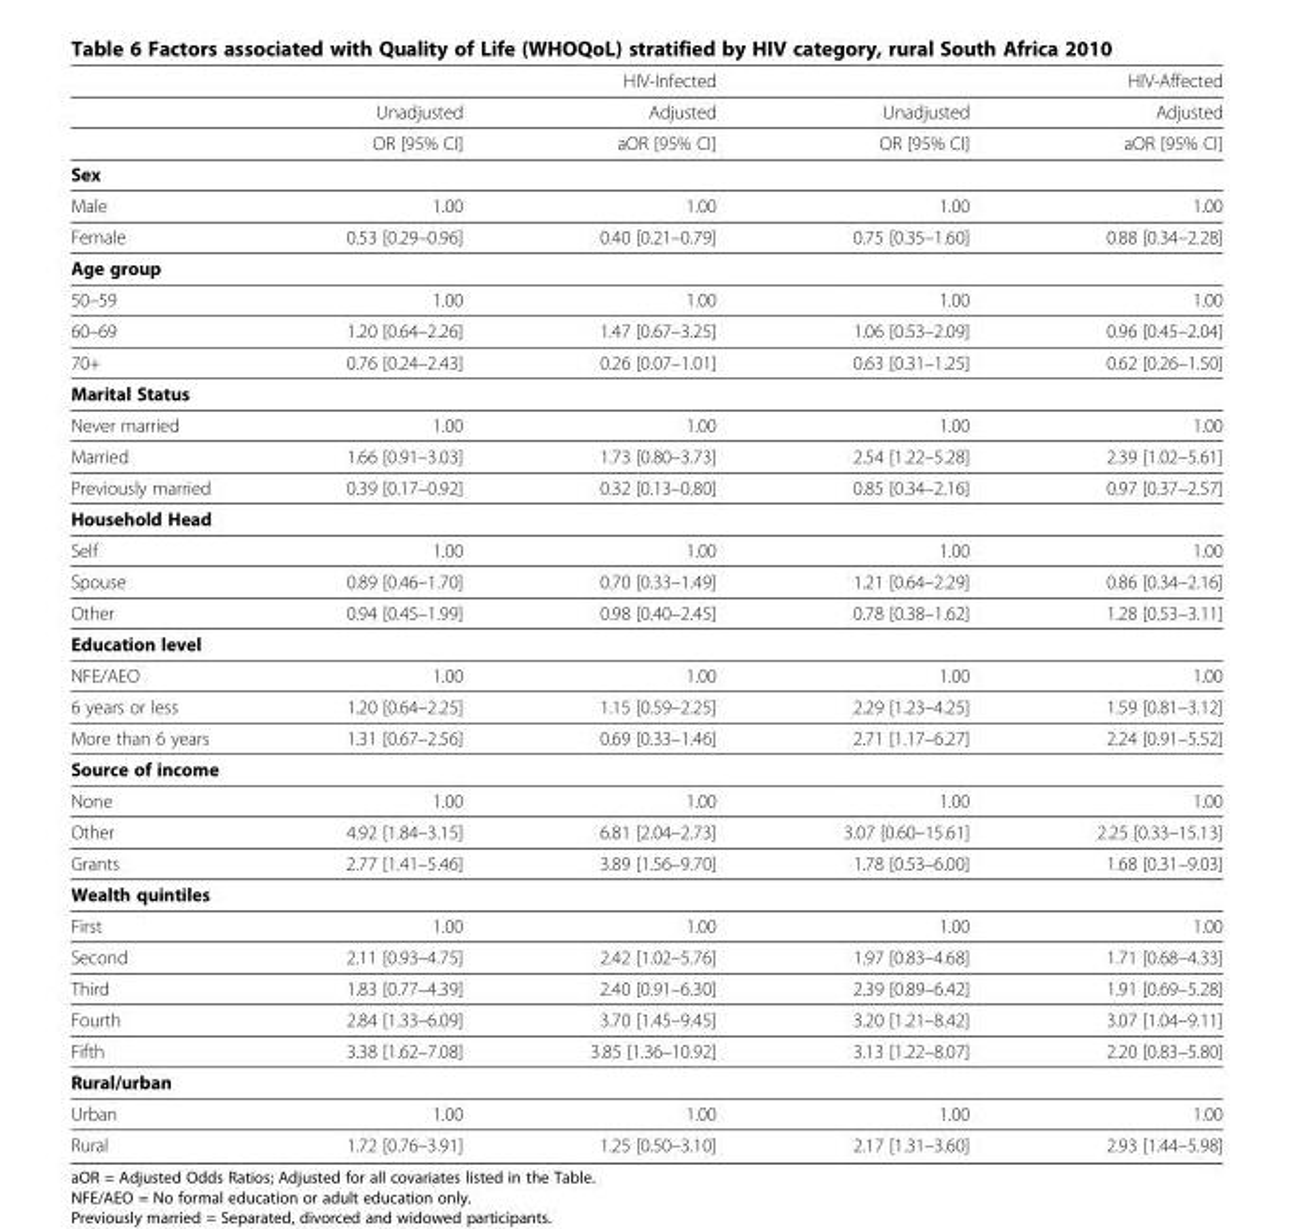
<table><thead><tr><td rowspan="2"></td><td colspan="2">HIV-Infected</td><td colspan="2">HIV-Affected</td></tr><tr><td>Unadjusted</td><td>Adjusted</td><td>Unadjusted</td><td>Adjusted</td></tr></thead><tbody><tr><td></td><td>OR [95% CI]</td><td>aOR [95% CI]</td><td>OR [95% CI]</td><td>aOR [95% CI]</td></tr><tr><td colspan="5">Sex</td></tr><tr><td>Male</td><td>1.00</td><td>1.00</td><td>1.00</td><td>1.00</td></tr><tr><td>Female</td><td>0.53 [0.29–0.96]</td><td>0.40 [0.21–0.79]</td><td>0.75 [0.35–1.60]</td><td>0.88 [0.34–2.28]</td></tr><tr><td colspan="5">Age group</td></tr><tr><td>50–59</td><td>1.00</td><td>1.00</td><td>1.00</td><td>1.00</td></tr><tr><td>60–69</td><td>1.20 [0.64–2.26]</td><td>1.47 [0.67–3.25]</td><td>1.06 [0.53–2.09]</td><td>0.96 [0.45–2.04]</td></tr><tr><td>70+</td><td>0.76 [0.24–2.43]</td><td>0.26 [0.07–1.01]</td><td>0.63 [0.31–1.25]</td><td>0.62 [0.26–1.50]</td></tr><tr><td colspan="5">Marital Status</td></tr><tr><td>Never married</td><td>1.00</td><td>1.00</td><td>1.00</td><td>1.00</td></tr><tr><td>Married</td><td>1.66 [0.91–3.03]</td><td>1.73 [0.80–3.73]</td><td>2.54 [1.22–5.28]</td><td>2.39 [1.02–5.61]</td></tr><tr><td>Previously married</td><td>0.39 [0.17–0.92]</td><td>0.32 [0.13–0.80]</td><td>0.85 [0.34–2.16]</td><td>0.97 [0.37–2.57]</td></tr><tr><td colspan="5">Household Head</td></tr><tr><td>Self</td><td>1.00</td><td>1.00</td><td>1.00</td><td>1.00</td></tr><tr><td>Spouse</td><td>0.89 [0.46–1.70]</td><td>0.70 [0.33–1.49]</td><td>1.21 [0.64–2.29]</td><td>0.86 [0.34–2.16]</td></tr><tr><td>Other</td><td>0.94 [0.45–1.99]</td><td>0.98 [0.40–2.45]</td><td>0.78 [0.38–1.62]</td><td>1.28 [0.53–3.11]</td></tr><tr><td colspan="5">Education level</td></tr><tr><td>NFE/AEO</td><td>1.00</td><td>1.00</td><td>1.00</td><td>1.00</td></tr><tr><td>6 years or less</td><td>1.20 [0.64–2.25]</td><td>1.15 [0.59–2.25]</td><td>2.29 [1.23–4.25]</td><td>1.59 [0.81–3.12]</td></tr><tr><td>More than 6 years</td><td>1.31 [0.67–2.56]</td><td>0.69 [0.33–1.46]</td><td>2.71 [1.17–6.27]</td><td>2.24 [0.91–5.52]</td></tr><tr><td colspan="5">Source of income</td></tr><tr><td>None</td><td>1.00</td><td>1.00</td><td>1.00</td><td>1.00</td></tr><tr><td>Other</td><td>4.92 [1.84–3.15]</td><td>6.81 [2.04–2.73]</td><td>3.07 [0.60–15.61]</td><td>2.25 [0.33–15.13]</td></tr><tr><td>Grants</td><td>2.77 [1.41–5.46]</td><td>3.89 [1.56–9.70]</td><td>1.78 [0.53–6.00]</td><td>1.68 [0.31–9.03]</td></tr><tr><td colspan="5">Wealth quintiles</td></tr><tr><td>First</td><td>1.00</td><td>1.00</td><td>1.00</td><td>1.00</td></tr><tr><td>Second</td><td>2.11 [0.93–4.75]</td><td>2.42 [1.02–5.76]</td><td>1.97 [0.83–4.68]</td><td>1.71 [0.68–4.33]</td></tr><tr><td>Third</td><td>1.83 [0.77–4.39]</td><td>2.40 [0.91–6.30]</td><td>2.39 [0.89–6.42]</td><td>1.91 [0.69–5.28]</td></tr><tr><td>Fourth</td><td>2.84 [1.33–6.09]</td><td>3.70 [1.45–9.45]</td><td>3.20 [1.21–8.42]</td><td>3.07 [1.04–9.11]</td></tr><tr><td>Fifth</td><td>3.38 [1.62–7.08]</td><td>3.85 [1.36–10.92]</td><td>3.13 [1.22–8.07]</td><td>2.20 [0.83–5.80]</td></tr><tr><td colspan="5">Rural/urban</td></tr><tr><td>Urban</td><td>1.00</td><td>1.00</td><td>1.00</td><td>1.00</td></tr><tr><td>Rural</td><td>1.72 [0.76–3.91]</td><td>1.25 [0.50–3.10]</td><td>2.17 [1.31–3.60]</td><td>2.93 [1.44–5.98]</td></tr></tbody></table>